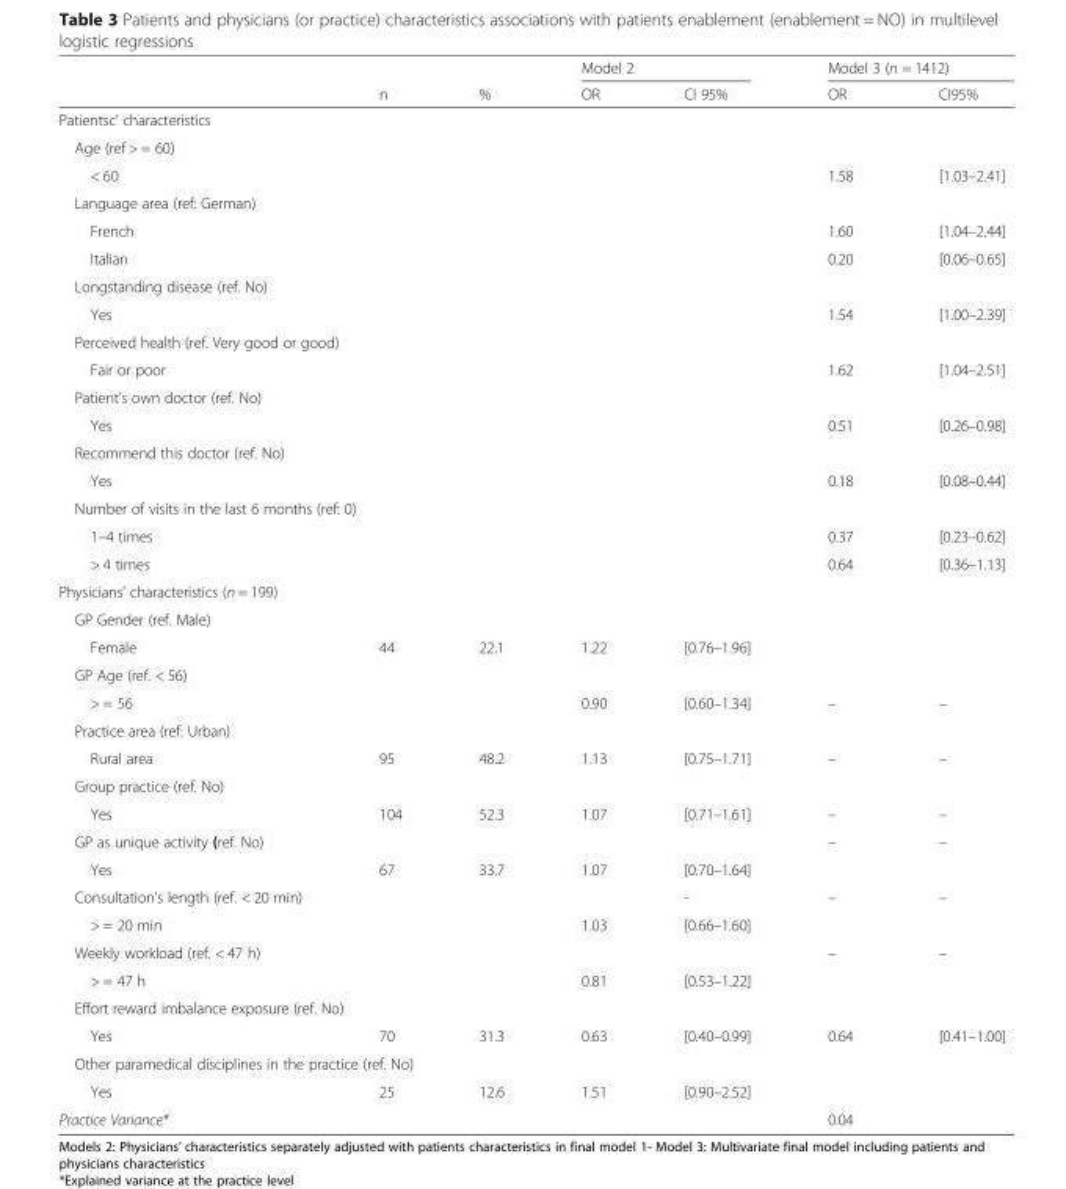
<table><thead><tr><td rowspan="2"></td><td rowspan="2">n</td><td rowspan="2">%</td><td colspan="2">Model 2</td><td colspan="2">Model 3 (n = 1412)</td></tr><tr><td>OR</td><td>CI 95%</td><td>OR</td><td>CI95%</td></tr></thead><tbody><tr><td colspan="7">Patientsc’ characteristics</td></tr><tr><td colspan="7">Age (ref &gt; = 60)</td></tr><tr><td>&lt; 60</td><td></td><td></td><td></td><td></td><td>1.58</td><td>[1.03–2.41]</td></tr><tr><td colspan="7">Language area (ref: German)</td></tr><tr><td>French</td><td></td><td></td><td></td><td></td><td>1.60</td><td>[1.04–2.44]</td></tr><tr><td>Italian</td><td></td><td></td><td></td><td></td><td>0.20</td><td>[0.06–0.65]</td></tr><tr><td colspan="7">Longstanding disease (ref. No)</td></tr><tr><td>Yes</td><td></td><td></td><td></td><td></td><td>1.54</td><td>[1.00–2.39]</td></tr><tr><td colspan="7">Perceived health (ref. Very good or good)</td></tr><tr><td>Fair or poor</td><td></td><td></td><td></td><td></td><td>1.62</td><td>[1.04–2.51]</td></tr><tr><td colspan="7">Patient’s own doctor (ref. No)</td></tr><tr><td>Yes</td><td></td><td></td><td></td><td></td><td>0.51</td><td>[0.26–0.98]</td></tr><tr><td colspan="7">Recommend this doctor (ref. No)</td></tr><tr><td>Yes</td><td></td><td></td><td></td><td></td><td>0.18</td><td>[0.08–0.44]</td></tr><tr><td colspan="7">Number of visits in the last 6 months (ref: 0)</td></tr><tr><td>1–4 times</td><td></td><td></td><td></td><td></td><td>0.37</td><td>[0.23–0.62]</td></tr><tr><td>&gt; 4 times</td><td></td><td></td><td></td><td></td><td>0.64</td><td>[0.36–1.13]</td></tr><tr><td colspan="7">Physicians’ characteristics (n = 199)</td></tr><tr><td colspan="7">GP Gender (ref. Male)</td></tr><tr><td>Female</td><td>44</td><td>22.1</td><td>1.22</td><td>[0.76–1.96]</td><td></td><td></td></tr><tr><td colspan="7">GP Age (ref. &lt; 56)</td></tr><tr><td>&gt; = 56</td><td></td><td></td><td>0.90</td><td>[0.60–1.34]</td><td>–</td><td>–</td></tr><tr><td colspan="7">Practice area (ref: Urban)</td></tr><tr><td>Rural area</td><td>95</td><td>48.2</td><td>1.13</td><td>[0.75–1.71]</td><td>–</td><td>–</td></tr><tr><td colspan="7">Group practice (ref. No)</td></tr><tr><td>Yes</td><td>104</td><td>52.3</td><td>1.07</td><td>[0.71–1.61]</td><td>–</td><td>–</td></tr><tr><td>GP as unique activity (ref. No)</td><td></td><td></td><td></td><td></td><td>–</td><td>–</td></tr><tr><td>Yes</td><td>67</td><td>33.7</td><td>1.07</td><td>[0.70–1.64]</td><td></td><td></td></tr><tr><td>Consultation’s length (ref. &lt; 20 min)</td><td></td><td></td><td></td><td>-</td><td>–</td><td>–</td></tr><tr><td>&gt; = 20 min</td><td></td><td></td><td>1.03</td><td>[0.66–1.60]</td><td></td><td></td></tr><tr><td>Weekly workload (ref. &lt; 47 h)</td><td></td><td></td><td></td><td></td><td>–</td><td>–</td></tr><tr><td>&gt; = 47 h</td><td></td><td></td><td>0.81</td><td>[0.53–1.22]</td><td></td><td></td></tr><tr><td colspan="7">Effort reward imbalance exposure (ref. No)</td></tr><tr><td>Yes</td><td>70</td><td>31.3</td><td>0.63</td><td>[0.40–0.99]</td><td>0.64</td><td>[0.41–1.00]</td></tr><tr><td colspan="7">Other paramedical disciplines in the practice (ref. No)</td></tr><tr><td>Yes</td><td>25</td><td>12.6</td><td>1.51</td><td>[0.90–2.52]</td><td></td><td></td></tr><tr><td>Practice Variance*</td><td></td><td></td><td></td><td></td><td>0.04</td><td></td></tr></tbody></table>